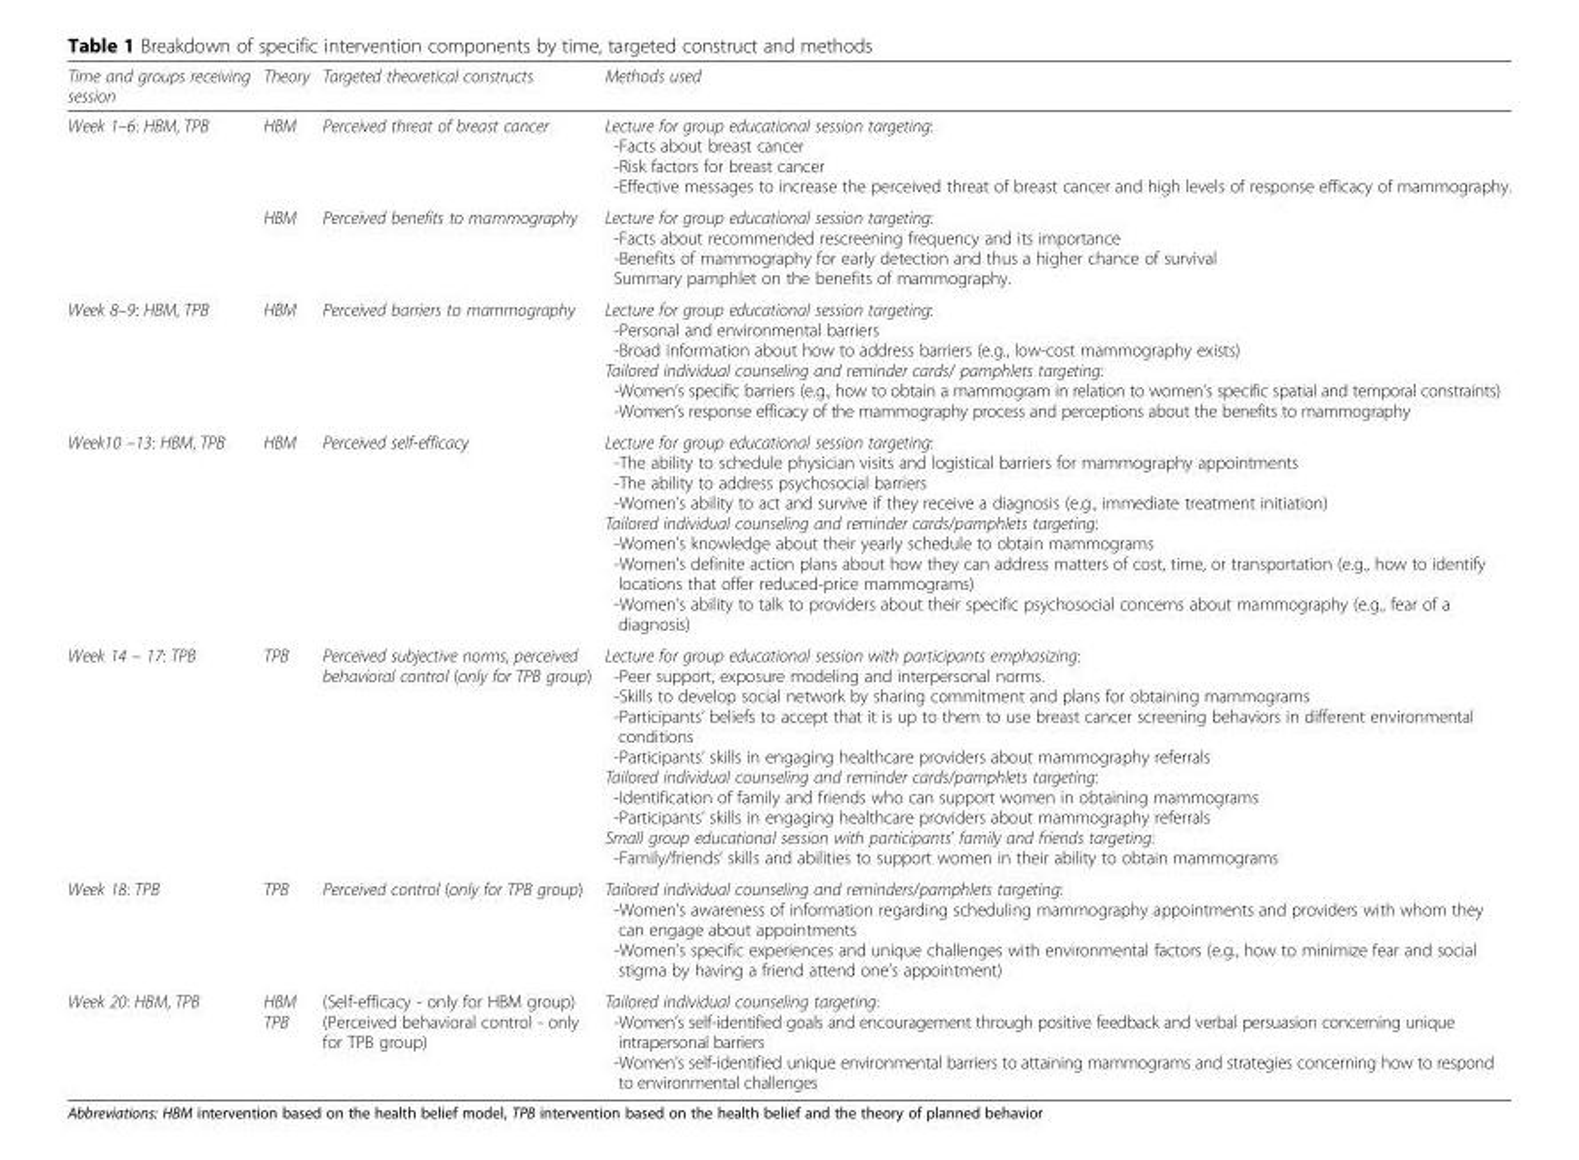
<table><thead><tr><td>Time and groups receiving session</td><td>Theory</td><td>Targeted theoretical constructs</td><td>Methods used</td></tr></thead><tbody><tr><td rowspan="2">Week 1–6: HBM, TPB</td><td>HBM</td><td>Perceived threat of breast cancer</td><td>Lecture for group educational session targeting: -Facts about breast cancer -Risk factors for breast cancer -Effective messages to increase the perceived threat of breast cancer and high levels of response efficacy of mammography.</td></tr><tr><td>HBM</td><td>Perceived benefits to mammography</td><td>Lecture for group educational session targeting: -Facts about recommended rescreening frequency and its importance -Benefits of mammography for early detection and thus a higher chance of survival Summary pamphlet on the benefits of mammography.</td></tr><tr><td>Week 8–9: HBM, TPB</td><td>HBM</td><td>Perceived barriers to mammography</td><td>Lecture for group educational session targeting: -Personal and environmental barriers -Broad information about how to address barriers (e.g., low-cost mammography exists) Tailored individual counseling and reminder cards/ pamphlets targeting: -Women’s specific barriers (e.g., how to obtain a mammogram in relation to women’s specific spatial and temporal constraints) -Women’s response efficacy of the mammography process and perceptions about the benefits to mammography</td></tr><tr><td>Week10 –13: HBM, TPB</td><td>HBM</td><td>Perceived self-efficacy</td><td>Lecture for group educational session targeting: -The ability to schedule physician visits and logistical barriers for mammography appointments -The ability to address psychosocial barriers -Women’s ability to act and survive if they receive a diagnosis (e.g., immediate treatment initiation) Tailored individual counseling and reminder cards/pamphlets targeting: -Women’s knowledge about their yearly schedule to obtain mammograms -Women’s definite action plans about how they can address matters of cost, time, or transportation (e.g., how to identify locations that offer reduced-price mammograms) -Women’s ability to talk to providers about their specific psychosocial concerns about mammography (e.g., fear of a diagnosis)</td></tr><tr><td>Week 14 – 17: TPB</td><td>TPB</td><td>Perceived subjective norms, perceived behavioral control (only for TPB group)</td><td>Lecture for group educational session with participants emphasizing: -Peer support, exposure modeling and interpersonal norms. -Skills to develop social network by sharing commitment and plans for obtaining mammograms -Participants’ beliefs to accept that it is up to them to use breast cancer screening behaviors in different environmental conditions -Participants’ skills in engaging healthcare providers about mammography referrals Tailored individual counseling and reminder cards/pamphlets targeting: -Identification of family and friends who can support women in obtaining mammograms -Participants’ skills in engaging healthcare providers about mammography referrals Small group educational session with participants’ family and friends targeting: -Family/friends’ skills and abilities to support women in their ability to obtain mammograms</td></tr><tr><td>Week 18: TPB</td><td>TPB</td><td>Perceived control (only for TPB group)</td><td>Tailored individual counseling and reminders/pamphlets targeting: -Women’s awareness of information regarding scheduling mammography appointments and providers with whom they can engage about appointments -Women’s specific experiences and unique challenges with environmental factors (e.g., how to minimize fear and social stigma by having a friend attend one’s appointment)</td></tr><tr><td>Week 20: HBM, TPB</td><td>HBM TPB</td><td>(Self-efficacy - only for HBM group) (Perceived behavioral control - only for TPB group)</td><td>Tailored individual counseling targeting: -Women’s self-identified goals and encouragement through positive feedback and verbal persuasion concerning unique intrapersonal barriers -Women’s self-identified unique environmental barriers to attaining mammograms and strategies concerning how to respond to environmental challenges</td></tr></tbody></table>